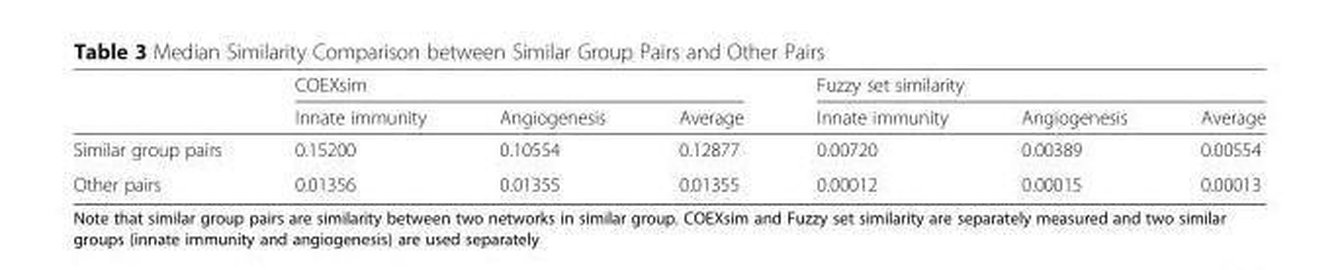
<table><thead><tr><td rowspan="2"></td><td colspan="3">COEXsim</td><td colspan="3">Fuzzy set similarity</td></tr><tr><td>Innate immunity</td><td>Angiogenesis</td><td>Average</td><td>Innate immunity</td><td>Angiogenesis</td><td>Average</td></tr></thead><tbody><tr><td>Similar group pairs</td><td>0.15200</td><td>0.10554</td><td>0.12877</td><td>0.00720</td><td>0.00389</td><td>0.00554</td></tr><tr><td>Other pairs</td><td>0.01356</td><td>0.01355</td><td>0.01355</td><td>0.00012</td><td>0.00015</td><td>0.00013</td></tr></tbody></table>